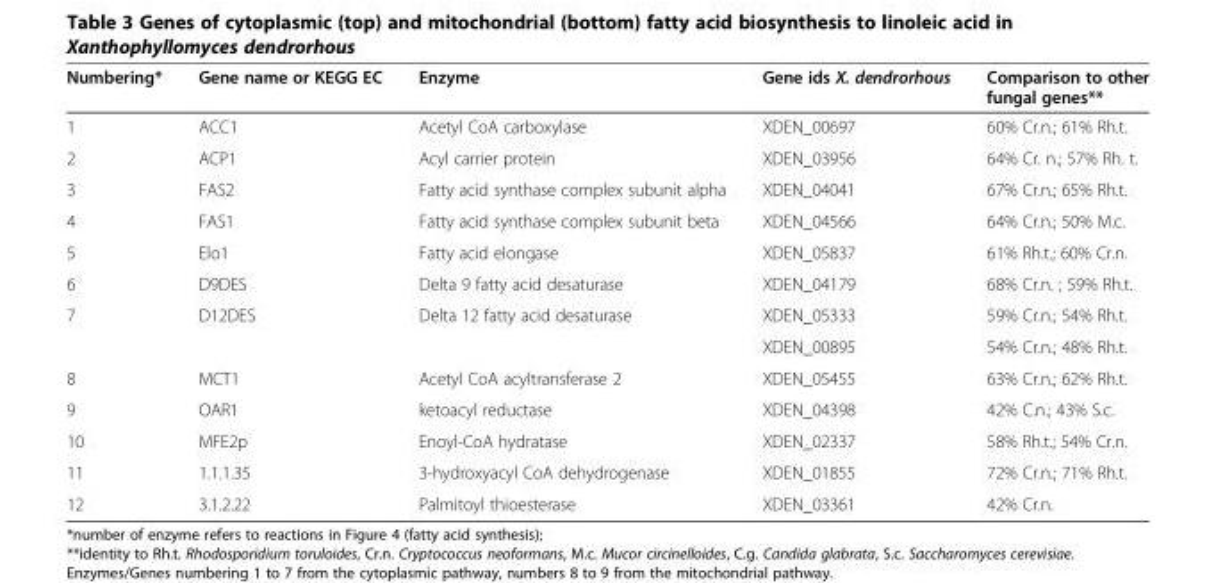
<table><thead><tr><td>Numbering*</td><td>Gene name or KEGG EC</td><td>Enzyme</td><td>Gene ids X. dendrorhous</td><td>Comparison to other fungal genes**</td></tr></thead><tbody><tr><td>1</td><td>ACC1</td><td>Acetyl CoA carboxylase</td><td>XDEN_00697</td><td>60% Cr.n.; 61% Rh.t.</td></tr><tr><td>2</td><td>ACP1</td><td>Acyl carrier protein</td><td>XDEN_03956</td><td>64% Cr. n.; 57% Rh. t.</td></tr><tr><td>3</td><td>FAS2</td><td>Fatty acid synthase complex subunit alpha</td><td>XDEN_04041</td><td>67% Cr.n.; 65% Rh.t.</td></tr><tr><td>4</td><td>FAS1</td><td>Fatty acid synthase complex subunit beta</td><td>XDEN_04566</td><td>64% Cr.n.; 50% M.c.</td></tr><tr><td>5</td><td>Elo1</td><td>Fatty acid elongase</td><td>XDEN_05837</td><td>61% Rh.t.; 60% Cr.n.</td></tr><tr><td>6</td><td>D9DES</td><td>Delta 9 fatty acid desaturase</td><td>XDEN_04179</td><td>68% Cr.n. ; 59% Rh.t.</td></tr><tr><td rowspan="2">7</td><td rowspan="2">D12DES</td><td rowspan="2">Delta 12 fatty acid desaturase</td><td>XDEN_05333</td><td>59% Cr.n.; 54% Rh.t.</td></tr><tr><td>XDEN_00895</td><td>54% Cr.n.; 48% Rh.t.</td></tr><tr><td>8</td><td>MCT1</td><td>Acetyl CoA acyltransferase 2</td><td>XDEN_05455</td><td>63% Cr.n.; 62% Rh.t.</td></tr><tr><td>9</td><td>OAR1</td><td>ketoacyl reductase</td><td>XDEN_04398</td><td>42% C.n.; 43% S.c.</td></tr><tr><td>10</td><td>MFE2p</td><td>Enoyl-CoA hydratase</td><td>XDEN_02337</td><td>58% Rh.t.; 54% Cr.n.</td></tr><tr><td>11</td><td>1.1.1.35</td><td>3-hydroxyacyl CoA dehydrogenase</td><td>XDEN_01855</td><td>72% Cr.n.; 71% Rh.t.</td></tr><tr><td>12</td><td>3.1.2.22</td><td>Palmitoyl thioesterase</td><td>XDEN_03361</td><td>42% Cr.n.</td></tr></tbody></table>